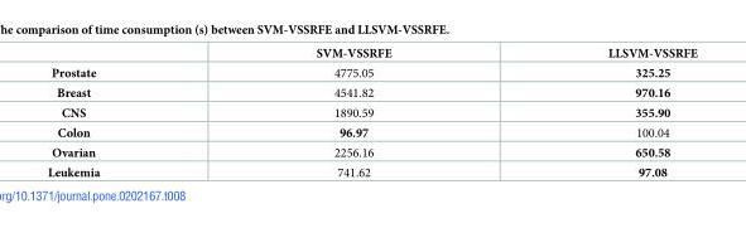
<table><thead><tr><td></td><td>SVM-VSSRFE</td><td>LLSVM-VSSRFE</td></tr></thead><tbody><tr><td>Prostate</td><td>4775.05</td><td>325.25</td></tr><tr><td>Breast</td><td>4541.82</td><td>970.16</td></tr><tr><td>CNS</td><td>1890.59</td><td>355.90</td></tr><tr><td>Colon</td><td>96.97</td><td>100.04</td></tr><tr><td>Ovarian</td><td>2256.16</td><td>650.58</td></tr><tr><td>Leukemia</td><td>741.62</td><td>97.08</td></tr></tbody></table>